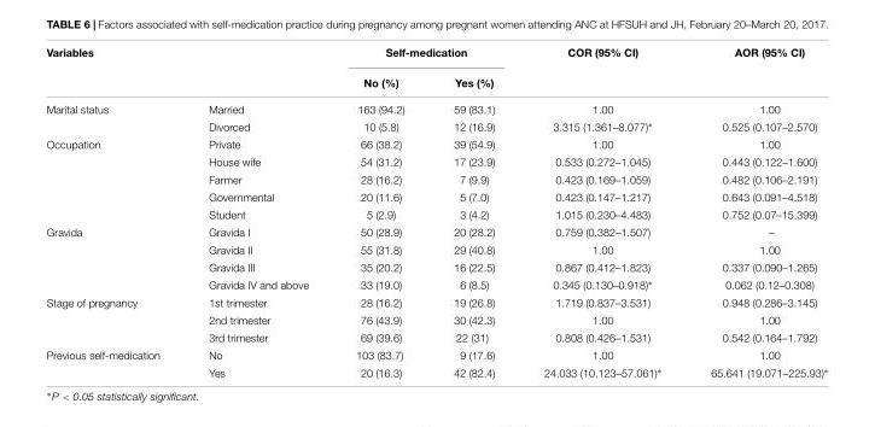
<table><thead><tr><td colspan="2">Variables</td><td colspan="2">Self-medication</td><td rowspan="2">COR (95% CI)</td><td rowspan="2">AOR (95% CI)</td></tr><tr><td></td><td></td><td>No (%)</td><td>Yes (%)</td></tr></thead><tbody><tr><td rowspan="2">Marital status</td><td>Married</td><td>163 (94.2)</td><td>59 (83.1)</td><td>1.00</td><td>1.00</td></tr><tr><td>Divorced</td><td>10 (5.8)</td><td>12 (16.9)</td><td>3.315 (1.361–8.077)∗</td><td>0.525 (0.107–2.570)</td></tr><tr><td rowspan="5">Occupation</td><td>Private</td><td>66 (38.2)</td><td>39 (54.9)</td><td>1.00</td><td>1.00</td></tr><tr><td>House wife</td><td>54 (31.2)</td><td>17 (23.9)</td><td>0.533 (0.272–1.045)</td><td>0.443 (0.122–1.600)</td></tr><tr><td>Farmer</td><td>28 (16.2)</td><td>7 (9.9)</td><td>0.423 (0.169–1.059)</td><td>0.482 (0.106–2.191)</td></tr><tr><td>Governmental</td><td>20 (11.6)</td><td>5 (7.0)</td><td>0.423 (0.147–1.217)</td><td>0.643 (0.091–4.518)</td></tr><tr><td>Student</td><td>5 (2.9)</td><td>3 (4.2)</td><td>1.015 (0.230–4.483)</td><td>0.752 (0.07–15.399)</td></tr><tr><td rowspan="4">Gravida</td><td>Gravida I</td><td>50 (28.9)</td><td>20 (28.2)</td><td>0.759 (0.382–1.507)</td><td>–</td></tr><tr><td>Gravida II</td><td>55 (31.8)</td><td>29 (40.8)</td><td>1.00</td><td>1.00</td></tr><tr><td>Gravida III</td><td>35 (20.2)</td><td>16 (22.5)</td><td>0.867 (0.412–1.823)</td><td>0.337 (0.090–1.265)</td></tr><tr><td>Gravida IV and above</td><td>33 (19.0)</td><td>6 (8.5)</td><td>0.345 (0.130–0.918)∗</td><td>0.062 (0.12–0.308)</td></tr><tr><td rowspan="3">Stage of pregnancy</td><td>1st trimester</td><td>28 (16.2)</td><td>19 (26.8)</td><td>1.719 (0.837–3.531)</td><td>0.948 (0.286–3.145)</td></tr><tr><td>2nd trimester</td><td>76 (43.9)</td><td>30 (42.3)</td><td>1.00</td><td>1.00</td></tr><tr><td>3rd trimester</td><td>69 (39.6)</td><td>22 (31)</td><td>0.808 (0.426–1.531)</td><td>0.542 (0.164–1.792)</td></tr><tr><td rowspan="2">Previous self-medication</td><td>No</td><td>103 (83.7)</td><td>9 (17.6)</td><td>1.00</td><td>1.00</td></tr><tr><td>Yes</td><td>20 (16.3)</td><td>42 (82.4)</td><td>24.033 (10.123–57.061)∗</td><td>65.641 (19.071–225.93)∗</td></tr></tbody></table>